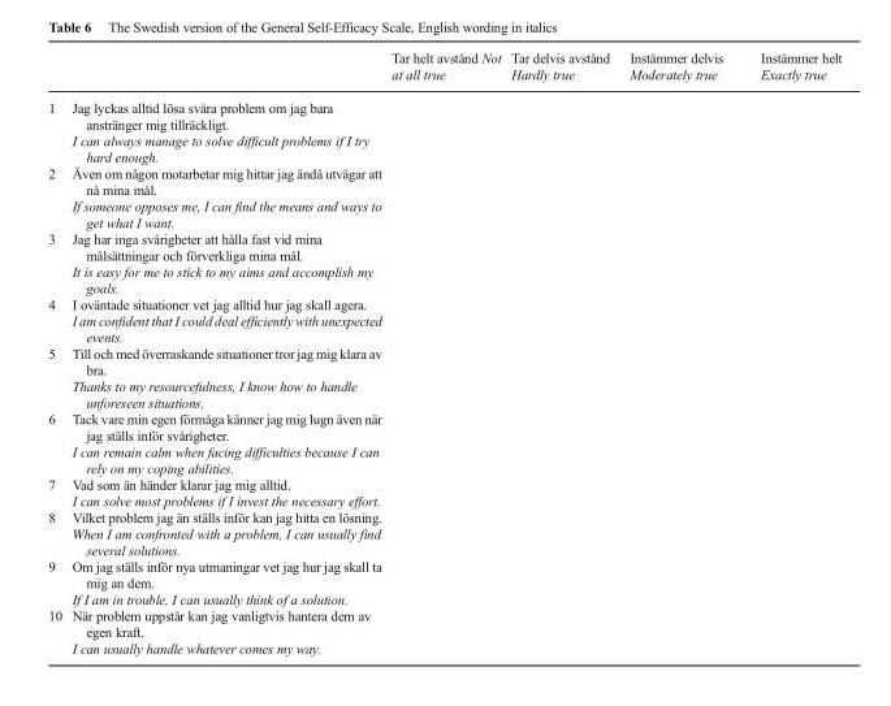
<table><thead><tr><td></td><td></td><td>Tar helt avstånd Not at all true</td><td>Tar delvis avstånd Hardly true</td><td>Instämmer delvis Moderately true</td><td>Instämmer helt Exactly true</td></tr></thead><tbody><tr><td>1</td><td>Jag lyckas alltid lösa svåra problem om jag bara anstränger mig tillräckligt. I can always manage to solve difficult problems if I try hard enough.</td><td></td><td></td><td></td><td></td></tr><tr><td>2</td><td>Även om någon motarbetar mig hittar jag ändå utvägar att nå mina mål. If someone opposes me, I can find the means and ways to get what I want.</td><td></td><td></td><td></td><td></td></tr><tr><td>3</td><td>Jag har inga svårigheter att hålla fast vid mina målsättningar och förverkliga mina mål. It is easy for me to stick to my aims and accomplish my goals.</td><td></td><td></td><td></td><td></td></tr><tr><td>4</td><td>I oväntade situationer vet jag alltid hur jag skall agera. I am confident that I could deal efficiently with unexpected events.</td><td></td><td></td><td></td><td></td></tr><tr><td>5</td><td>Till och med överraskande situationer tror jag mig klara av bra. Thanks to my resourcefulness, I know how to handle unforeseen situations.</td><td></td><td></td><td></td><td></td></tr><tr><td>6</td><td>Tack vare min egen förmåga känner jag mig lugn även när jag ställs inför svårigheter. I can remain calm when facing difficulties because I can rely on my coping abilities.</td><td></td><td></td><td></td><td></td></tr><tr><td>7</td><td>Vad som än händer klarar jag mig alltid. I can solve most problems if I invest the necessary effort.</td><td></td><td></td><td></td><td></td></tr><tr><td>8</td><td>Vilket problem jag än ställs inför kan jag hitta en lösning. When I am confronted with a problem, I can usually find several solutions.</td><td></td><td></td><td></td><td></td></tr><tr><td>9</td><td>Om jag ställs inför nya utmaningar vet jag hur jag skall ta mig an dem. If I am in trouble, I can usually think of a solution.</td><td></td><td></td><td></td><td></td></tr><tr><td>10</td><td>När problem uppstår kan jag vanligtvis hantera dem av egen kraft. I can usually handle whatever comes my way.</td><td></td><td></td><td></td><td></td></tr></tbody></table>